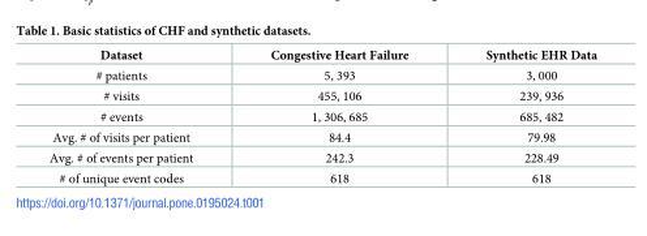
<table><thead><tr><td>Dataset</td><td>Congestive Heart Failure</td><td>Synthetic EHR Data</td></tr></thead><tbody><tr><td># patients</td><td>5, 393</td><td>3, 000</td></tr><tr><td># visits</td><td>455, 106</td><td>239, 936</td></tr><tr><td># events</td><td>1, 306, 685</td><td>685, 482</td></tr><tr><td>Avg. # of visits per patient</td><td>84.4</td><td>79.98</td></tr><tr><td>Avg. # of events per patient</td><td>242.3</td><td>228.49</td></tr><tr><td># of unique event codes</td><td>618</td><td>618</td></tr></tbody></table>